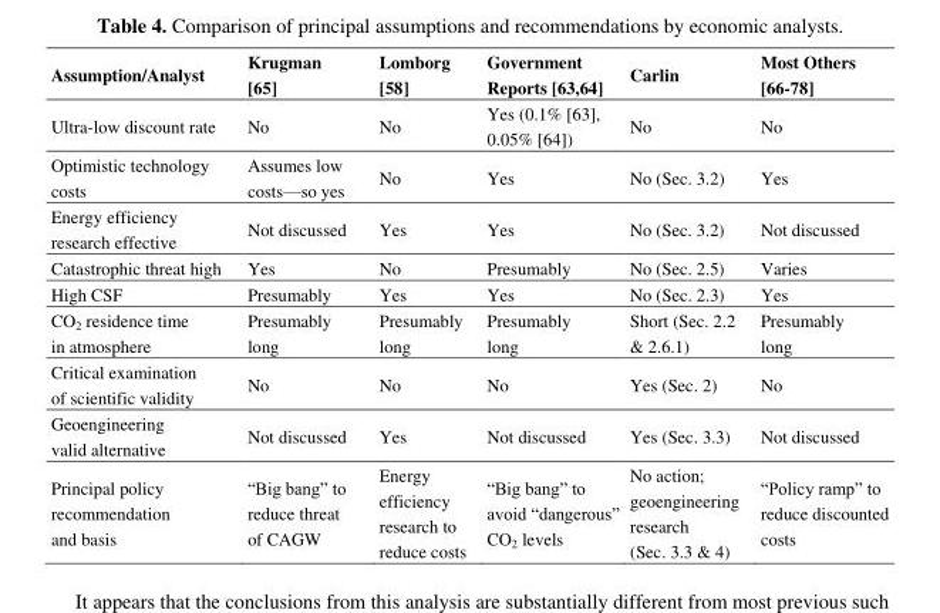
<table><thead><tr><td>Assumption/Analyst</td><td>Krugman [65]</td><td>Lomborg [58]</td><td>Government Reports [63,64]</td><td>Carlin</td><td>Most Others [66-78]</td></tr></thead><tbody><tr><td>Ultra-low discount rate</td><td>No</td><td>No</td><td>Yes (0.1% [63], 0.05% [64])</td><td>No</td><td>No</td></tr><tr><td>Optimistic technology costs</td><td>Assumes low costs—so yes</td><td>No</td><td>Yes</td><td>No (Sec. 3.2)</td><td>Yes</td></tr><tr><td>Energy efficiency research effective</td><td>Not discussed</td><td>Yes</td><td>Yes</td><td>No (Sec. 3.2)</td><td>Not discussed</td></tr><tr><td>Catastrophic threat high</td><td>Yes</td><td>No</td><td>Presumably</td><td>No (Sec. 2.5)</td><td>Varies</td></tr><tr><td>High CSF</td><td>Presumably</td><td>Yes</td><td>Yes</td><td>No (Sec. 2.3)</td><td>Yes</td></tr><tr><td>CO<sub>2</sub> residence time in atmosphere</td><td>Presumably long</td><td>Presumably long</td><td>Presumably long</td><td>Short (Sec. 2.2 &amp; 2.6.1)</td><td>Presumably long</td></tr><tr><td>Critical examination of scientific validity</td><td>No</td><td>No</td><td>No</td><td>Yes (Sec. 2)</td><td>No</td></tr><tr><td>Geoengineering valid alternative</td><td>Not discussed</td><td>Yes</td><td>Not discussed</td><td>Yes (Sec. 3.3)</td><td>Not discussed</td></tr><tr><td>Principal policy recommendation and basis</td><td>―Big bang‖ to reduce threat of CAGW</td><td>Energy efficiency research to reduce costs</td><td>―Big bang‖ to avoid ―dangerous‖ CO2 levels</td><td>No action; geoengineering research (Sec. 3.3 &amp; 4)</td><td>―Policy ramp‖ to reduce discounted costs</td></tr></tbody></table>